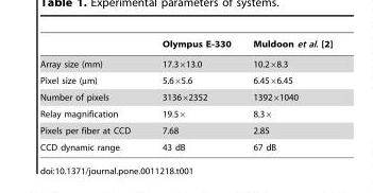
<table><thead><tr><td></td><td>Olympus E-330</td><td>Muldoon et al. [2]</td></tr></thead><tbody><tr><td>Array size (mm)</td><td>17.3×13.0</td><td>10.2×8.3</td></tr><tr><td>Pixel size (µm)</td><td>5.6×5.6</td><td>6.45×6.45</td></tr><tr><td>Number of pixels</td><td>3136×2352</td><td>1392×1040</td></tr><tr><td>Relay magnification</td><td>19.5×</td><td>8.3×</td></tr><tr><td>Pixels per fiber at CCD</td><td>7.68</td><td>2.85</td></tr><tr><td>CCD dynamic range</td><td>43 dB</td><td>67 dB</td></tr></tbody></table>